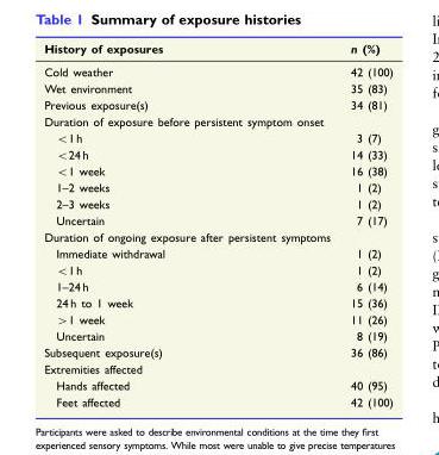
<table><thead><tr><td>History of exposures</td><td>n (%)</td></tr></thead><tbody><tr><td>Cold weather</td><td>42 (100)</td></tr><tr><td>Wet environment</td><td>35 (83)</td></tr><tr><td>Previous exposure(s)</td><td>34 (81)</td></tr><tr><td colspan="2">Duration of exposure before persistent symptom onset</td></tr><tr><td>&lt;1 h</td><td>3 (7)</td></tr><tr><td>&lt;24 h</td><td>14 (33)</td></tr><tr><td>&lt;1 week</td><td>16 (38)</td></tr><tr><td>1–2 weeks</td><td>1 (2)</td></tr><tr><td>2–3 weeks</td><td>1 (2)</td></tr><tr><td>Uncertain</td><td>7 (17)</td></tr><tr><td colspan="2">Duration of ongoing exposure after persistent symptoms</td></tr><tr><td>Immediate withdrawal</td><td>1 (2)</td></tr><tr><td>&lt;1 h</td><td>1 (2)</td></tr><tr><td>1–24 h</td><td>6 (14)</td></tr><tr><td>24 h to 1 week</td><td>15 (36)</td></tr><tr><td>&gt;1 week</td><td>11 (26)</td></tr><tr><td>Uncertain</td><td>8 (19)</td></tr><tr><td>Subsequent exposure(s)</td><td>36 (86)</td></tr><tr><td colspan="2">Extremities affected</td></tr><tr><td>Hands affected</td><td>40 (95)</td></tr><tr><td>Feet affected</td><td>42 (100)</td></tr></tbody></table>